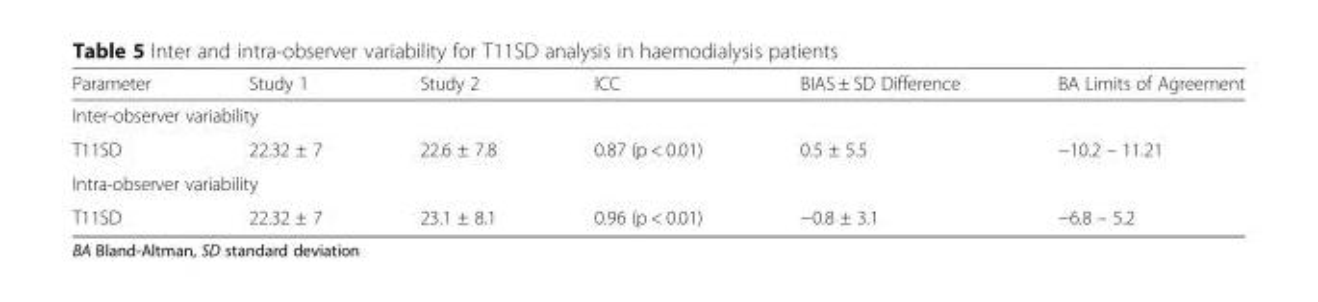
<table><thead><tr><td>Parameter</td><td>Study 1</td><td>Study 2</td><td>ICC</td><td>BIAS ± SD Difference</td><td>BA Limits of Agreement</td></tr></thead><tbody><tr><td colspan="6">Inter-observer variability</td></tr><tr><td>T11SD</td><td>22.32 ± 7</td><td>22.6 ± 7.8</td><td>0.87 (p &lt; 0.01)</td><td>0.5 ± 5.5</td><td>−10.2 – 11.21</td></tr><tr><td colspan="6">Intra-observer variability</td></tr><tr><td>T11SD</td><td>22.32 ± 7</td><td>23.1 ± 8.1</td><td>0.96 (p &lt; 0.01)</td><td>−0.8 ± 3.1</td><td>−6.8 – 5.2</td></tr></tbody></table>